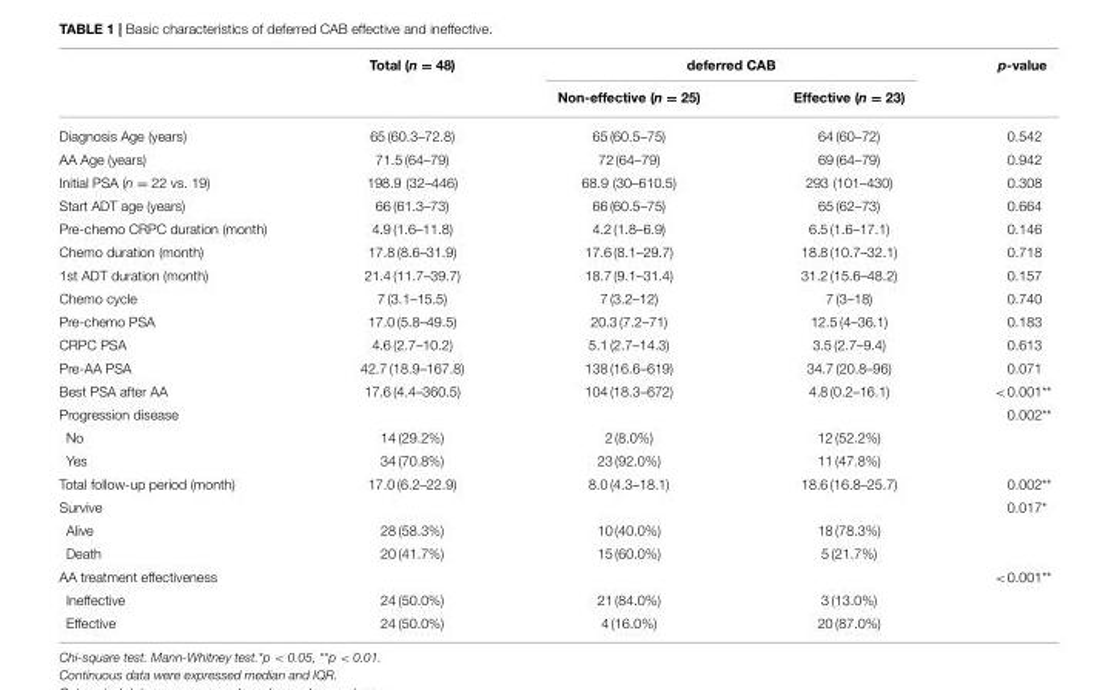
<table><thead><tr><td rowspan="2"></td><td rowspan="2">Total (n = 48)</td><td colspan="2">deferred CAB</td><td rowspan="2">p-value</td></tr><tr><td>Non-effective (n = 25)</td><td>Effective (n = 23)</td></tr></thead><tbody><tr><td>Diagnosis Age (years)</td><td>65 (60.3–72.8)</td><td>65 (60.5–75)</td><td>64 (60–72)</td><td>0.542</td></tr><tr><td>AA Age (years)</td><td>71.5 (64–79)</td><td>72 (64–79)</td><td>69 (64–79)</td><td>0.942</td></tr><tr><td>Initial PSA (n = 22 vs. 19)</td><td>198.9 (32–446)</td><td>68.9 (30–610.5)</td><td>293 (101–430)</td><td>0.308</td></tr><tr><td>Start ADT age (years)</td><td>66 (61.3–73)</td><td>66 (60.5–75)</td><td>65 (62–73)</td><td>0.664</td></tr><tr><td>Pre-chemo CRPC duration (month)</td><td>4.9 (1.6–11.8)</td><td>4.2 (1.8–6.9)</td><td>6.5 (1.6–17.1)</td><td>0.146</td></tr><tr><td>Chemo duration (month)</td><td>17.8 (8.6–31.9)</td><td>17.6 (8.1–29.7)</td><td>18.8 (10.7–32.1)</td><td>0.718</td></tr><tr><td>1st ADT duration (month)</td><td>21.4 (11.7–39.7)</td><td>18.7 (9.1–31.4)</td><td>31.2 (15.6–48.2)</td><td>0.157</td></tr><tr><td>Chemo cycle</td><td>7 (3.1–15.5)</td><td>7 (3.2–12)</td><td>7 (3–18)</td><td>0.740</td></tr><tr><td>Pre-chemo PSA</td><td>17.0 (5.8–49.5)</td><td>20.3 (7.2–71)</td><td>12.5 (4–36.1)</td><td>0.183</td></tr><tr><td>CRPC PSA</td><td>4.6 (2.7–10.2)</td><td>5.1 (2.7–14.3)</td><td>3.5 (2.7–9.4)</td><td>0.613</td></tr><tr><td>Pre-AA PSA</td><td>42.7 (18.9–167.8)</td><td>138 (16.6–619)</td><td>34.7 (20.8–96)</td><td>0.071</td></tr><tr><td>Best PSA after AA</td><td>17.6 (4.4–360.5)</td><td>104 (18.3–672)</td><td>4.8 (0.2–16.1)</td><td>&lt;0.001**</td></tr><tr><td>Progression disease</td><td></td><td></td><td></td><td>0.002**</td></tr><tr><td>No</td><td>14 (29.2%)</td><td>2 (8.0%)</td><td>12 (52.2%)</td><td></td></tr><tr><td>Yes</td><td>34 (70.8%)</td><td>23 (92.0%)</td><td>11 (47.8%)</td><td></td></tr><tr><td>Total follow-up period (month)</td><td>17.0 (6.2–22.9)</td><td>8.0 (4.3–18.1)</td><td>18.6 (16.8–25.7)</td><td>0.002**</td></tr><tr><td>Survive</td><td></td><td></td><td></td><td>0.017*</td></tr><tr><td>Alive</td><td>28 (58.3%)</td><td>10 (40.0%)</td><td>18 (78.3%)</td><td></td></tr><tr><td>Death</td><td>20 (41.7%)</td><td>15 (60.0%)</td><td>5 (21.7%)</td><td></td></tr><tr><td>AA treatment effectiveness</td><td></td><td></td><td></td><td>&lt;0.001**</td></tr><tr><td>Ineffective</td><td>24 (50.0%)</td><td>21 (84.0%)</td><td>3 (13.0%)</td><td></td></tr><tr><td>Effective</td><td>24 (50.0%)</td><td>4 (16.0%)</td><td>20 (87.0%)</td><td></td></tr></tbody></table>